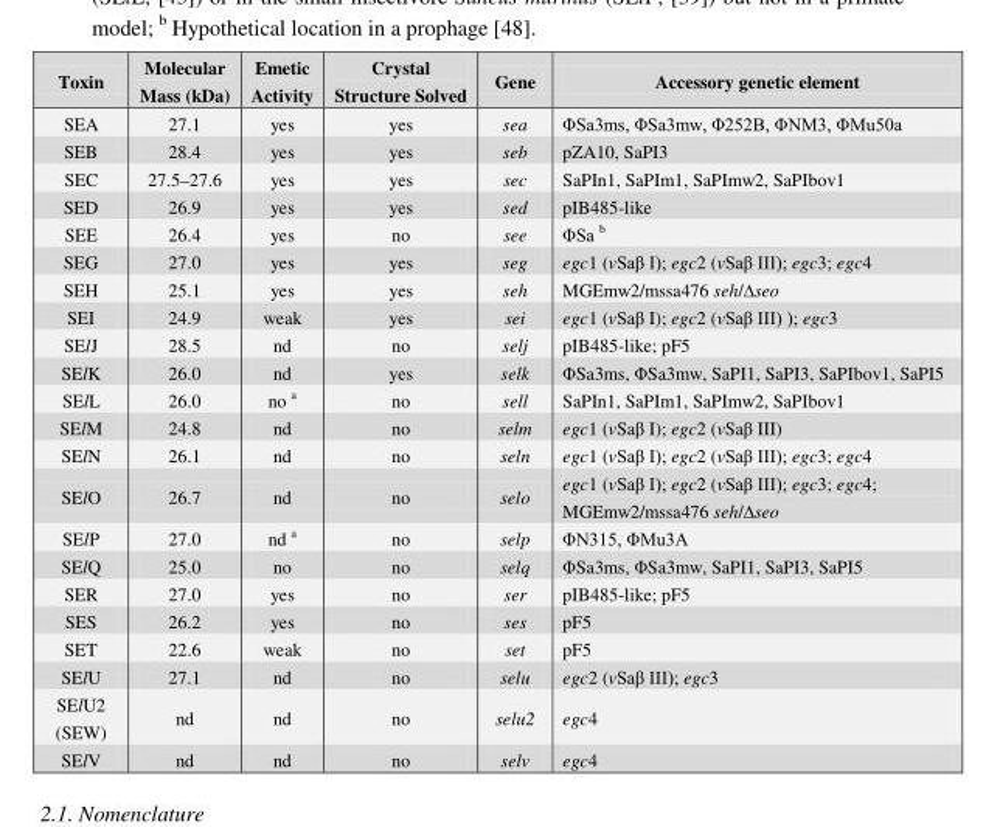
<table><thead><tr><td>Toxin</td><td>Molecular Mass (kDa)</td><td>Emetic Activity</td><td>Crystal Structure Solved</td><td>Gene</td><td>Accessory genetic element</td></tr></thead><tbody><tr><td>SEA</td><td>27.1</td><td>yes</td><td>yes</td><td>sea</td><td>ΦSa3ms, ΦSa3mw, Φ252B, ΦNM3, ΦMu50a</td></tr><tr><td>SEB</td><td>28.4</td><td>yes</td><td>yes</td><td>seb</td><td>pZA10, SaPI3</td></tr><tr><td>SEC</td><td>27.5–27.6</td><td>yes</td><td>yes</td><td>sec</td><td>SaPIn1, SaPIm1, SaPImw2, SaPIbov1</td></tr><tr><td>SED</td><td>26.9</td><td>yes</td><td>yes</td><td>sed</td><td>pIB485-like</td></tr><tr><td>SEE</td><td>26.4</td><td>yes</td><td>no</td><td>see</td><td>ΦSa <sup>b</sup></td></tr><tr><td>SEG</td><td>27.0</td><td>yes</td><td>yes</td><td>seg</td><td>egc1 (vSaβ I); egc2 (vSaβ III); egc3; egc4</td></tr><tr><td>SEH</td><td>25.1</td><td>yes</td><td>yes</td><td>seh</td><td>MGEmw2/mssa476 seh/∆seo</td></tr><tr><td>SEI</td><td>24.9</td><td>weak</td><td>yes</td><td>sei</td><td>egc1 (vSaβ I); egc2 (vSaβ III) ); egc3</td></tr><tr><td>SElJ</td><td>28.5</td><td>nd</td><td>no</td><td>selj</td><td>pIB485-like; pF5</td></tr><tr><td>SElK</td><td>26.0</td><td>nd</td><td>yes</td><td>selk</td><td>ΦSa3ms, ΦSa3mw, SaPI1, SaPI3, SaPIbov1, SaPI5</td></tr><tr><td>SElL</td><td>26.0</td><td>no <sup>a</sup></td><td>no</td><td>sell</td><td>SaPIn1, SaPIm1, SaPImw2, SaPIbov1</td></tr><tr><td>SElM</td><td>24.8</td><td>nd</td><td>no</td><td>selm</td><td>egc1 (vSaβ I); egc2 (vSaβ III)</td></tr><tr><td>SElN</td><td>26.1</td><td>nd</td><td>no</td><td>seln</td><td>egc1 (vSaβ I); egc2 (vSaβ III); egc3; egc4</td></tr><tr><td>SElO</td><td>26.7</td><td>nd</td><td>no</td><td>selo</td><td>egc1 (vSaβ I); egc2 (vSaβ III); egc3; egc4; MGEmw2/mssa476 seh/∆seo</td></tr><tr><td>SElP</td><td>27.0</td><td>nd <sup>a</sup></td><td>no</td><td>selp</td><td>ΦN315, ΦMu3A</td></tr><tr><td>SElQ</td><td>25.0</td><td>no</td><td>no</td><td>selq</td><td>ΦSa3ms, ΦSa3mw, SaPI1, SaPI3, SaPI5</td></tr><tr><td>SER</td><td>27.0</td><td>yes</td><td>no</td><td>ser</td><td>pIB485-like; pF5</td></tr><tr><td>SES</td><td>26.2</td><td>yes</td><td>no</td><td>ses</td><td>pF5</td></tr><tr><td>SET</td><td>22.6</td><td>weak</td><td>no</td><td>set</td><td>pF5</td></tr><tr><td>SElU</td><td>27.1</td><td>nd</td><td>no</td><td>selu</td><td>egc2 (vSaβ III); egc3</td></tr><tr><td>SElU2 (SEW)</td><td>nd</td><td>nd</td><td>no</td><td>selu2</td><td>egc4</td></tr><tr><td>SElV</td><td>nd</td><td>nd</td><td>no</td><td>selv</td><td>egc4</td></tr></tbody></table>